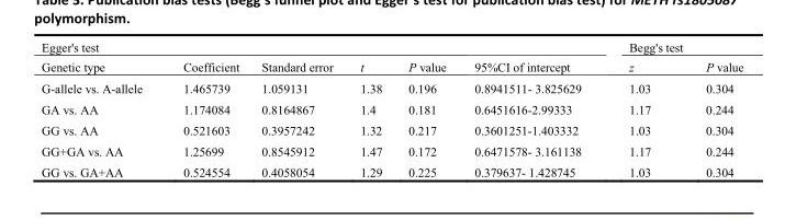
<table><tbody><tr><td>Egger&#x27;s test</td><td></td><td></td><td></td><td></td><td></td><td>Begg&#x27;s test</td><td></td></tr><tr><td>Genetic type</td><td>Coefficient</td><td>Standard error</td><td>t</td><td>P value</td><td>95%CI of intercept</td><td>z</td><td>P value</td></tr><tr><td>G-allele vs. A-allele</td><td>1.465739</td><td>1.059131</td><td>1.38</td><td>0.196</td><td>0.8941511- 3.825629</td><td>1.03</td><td>0.304</td></tr><tr><td>GA vs. AA</td><td>1.174084</td><td>0.8164867</td><td>1.4</td><td>0.181</td><td>0.6451616-2.99333</td><td>1.17</td><td>0.244</td></tr><tr><td>GG vs. AA</td><td>0.521603</td><td>0.3957242</td><td>1.32</td><td>0.217</td><td>0.3601251-1.403332</td><td>1.03</td><td>0.304</td></tr><tr><td>GG+GA vs. AA</td><td>1.25699</td><td>0.8545912</td><td>1.47</td><td>0.172</td><td>0.6471578- 3.161138</td><td>1.17</td><td>0.244</td></tr><tr><td>GG vs. GA+AA</td><td>0.524554</td><td>0.4058054</td><td>1.29</td><td>0.225</td><td>0.379637- 1.428745</td><td>1.03</td><td>0.304</td></tr></tbody></table>